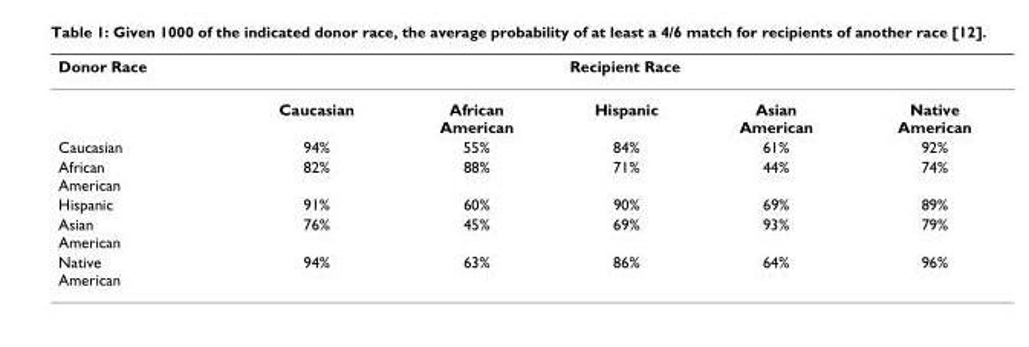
<table><thead><tr><td rowspan="2">Donor Race</td><td colspan="5">Recipient Race</td></tr><tr><td>Caucasian</td><td>African American</td><td>Hispanic</td><td>Asian American</td><td>Native American</td></tr></thead><tbody><tr><td>Caucasian</td><td>94%</td><td>55%</td><td>84%</td><td>61%</td><td>92%</td></tr><tr><td>African American</td><td>82%</td><td>88%</td><td>71%</td><td>44%</td><td>74%</td></tr><tr><td>Hispanic</td><td>91%</td><td>60%</td><td>90%</td><td>69%</td><td>89%</td></tr><tr><td>Asian American</td><td>76%</td><td>45%</td><td>69%</td><td>93%</td><td>79%</td></tr><tr><td>Native American</td><td>94%</td><td>63%</td><td>86%</td><td>64%</td><td>96%</td></tr></tbody></table>